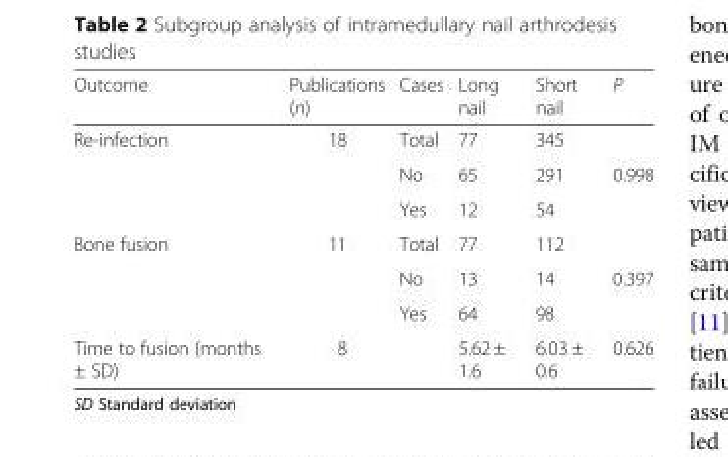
<table><thead><tr><td>Outcome</td><td>Publications (n)</td><td>Cases</td><td>Long nail</td><td>Short nail</td><td>P</td></tr></thead><tbody><tr><td rowspan="3">Re-infection</td><td rowspan="3">18</td><td>Total</td><td>77</td><td>345</td><td></td></tr><tr><td>No</td><td>65</td><td>291</td><td rowspan="2">0.998</td></tr><tr><td>Yes</td><td>12</td><td>54</td></tr><tr><td rowspan="3">Bone fusion</td><td rowspan="3">11</td><td>Total</td><td>77</td><td>112</td><td></td></tr><tr><td>No</td><td>13</td><td>14</td><td rowspan="2">0.397</td></tr><tr><td>Yes</td><td>64</td><td>98</td></tr><tr><td>Time to fusion (months ± SD)</td><td>8</td><td></td><td>5.62 ± 1.6</td><td>6.03 ± 0.6</td><td>0.626</td></tr></tbody></table>